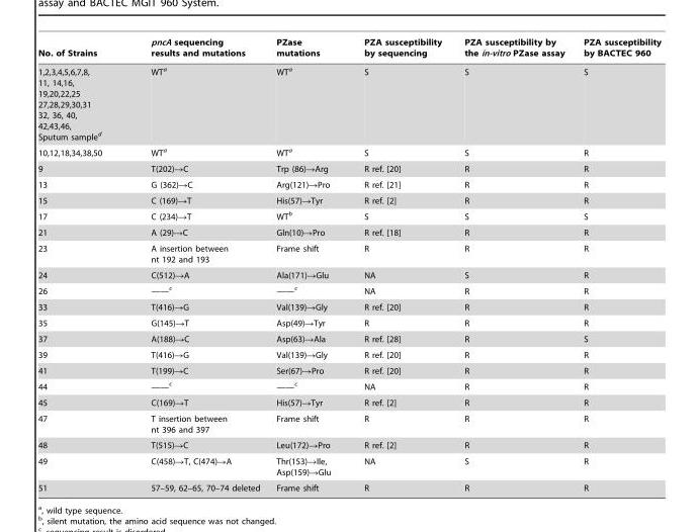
<table><thead><tr><td>No. of Strains</td><td>pncA sequencing results and mutations</td><td>PZase mutations</td><td>PZA susceptibility by sequencing</td><td>PZA susceptibility by the in-vitro PZase assay</td><td>PZA susceptibility by BACTEC 960</td></tr></thead><tbody><tr><td>1,2,3,4,5,6,7,8, 11, 14,16, 19,20,22,25 27,28,29,30,31 32, 36, 40, 42,43,46, Sputum sample<sup>d</sup></td><td>WT<sup>a</sup></td><td>WT<sup>a</sup></td><td>S</td><td>S</td><td>S</td></tr><tr><td>10,12,18,34,38,50</td><td>WT<sup>a</sup></td><td>WT<sup>a</sup></td><td>S</td><td>S</td><td>R</td></tr><tr><td>9</td><td>T(202)→C</td><td>Trp (86)→Arg</td><td>R ref. [20]</td><td>R</td><td>R</td></tr><tr><td>13</td><td>G (362)→C</td><td>Arg(121)→Pro</td><td>R ref. [21]</td><td>R</td><td>R</td></tr><tr><td>15</td><td>C (169)→T</td><td>His(57)→Tyr</td><td>R ref. [2]</td><td>R</td><td>R</td></tr><tr><td>17</td><td>C (234)→T</td><td>WT<sup>b</sup></td><td>S</td><td>S</td><td>S</td></tr><tr><td>21</td><td>A (29)→C</td><td>Gln(10)→Pro</td><td>R ref. [18]</td><td>R</td><td>R</td></tr><tr><td>23</td><td>A insertion between nt 192 and 193</td><td>Frame shift</td><td>R</td><td>R</td><td>R</td></tr><tr><td>24</td><td>C(512)→A</td><td>Ala(171)→Glu</td><td>NA</td><td>S</td><td>R</td></tr><tr><td>26</td><td>——c</td><td>——c</td><td>NA</td><td>R</td><td>R</td></tr><tr><td>33</td><td>T(416)→G</td><td>Val(139)→Gly</td><td>R ref. [20]</td><td>R</td><td>R</td></tr><tr><td>35</td><td>G(145)→T</td><td>Asp(49)→Tyr</td><td>R</td><td>R</td><td>R</td></tr><tr><td>37</td><td>A(188)→C</td><td>Asp(63)→Ala</td><td>R ref. [28]</td><td>R</td><td>S</td></tr><tr><td>39</td><td>T(416)→G</td><td>Val(139)→Gly</td><td>R ref. [20]</td><td>R</td><td>R</td></tr><tr><td>41</td><td>T(199)→C</td><td>Ser(67)→Pro</td><td>R ref. [20]</td><td>R</td><td>R</td></tr><tr><td>44</td><td>——c</td><td>——c</td><td>NA</td><td>R</td><td>R</td></tr><tr><td>45</td><td>C(169)→T</td><td>His(57)→Tyr</td><td>R ref. [2]</td><td>R</td><td>R</td></tr><tr><td>47</td><td>T insertion between nt 396 and 397</td><td>Frame shift</td><td>R</td><td>R</td><td>R</td></tr><tr><td>48</td><td>T(515)→C</td><td>Leu(172)→Pro</td><td>R ref. [2]</td><td>R</td><td>R</td></tr><tr><td>49</td><td>C(458)→T, C(474)→A</td><td>Thr(153)→Ile, Asp(159)→Glu</td><td>NA</td><td>S</td><td>R</td></tr><tr><td>51</td><td>57–59, 62–65, 70–74 deleted</td><td>Frame shift</td><td>R</td><td>R</td><td>R</td></tr></tbody></table>